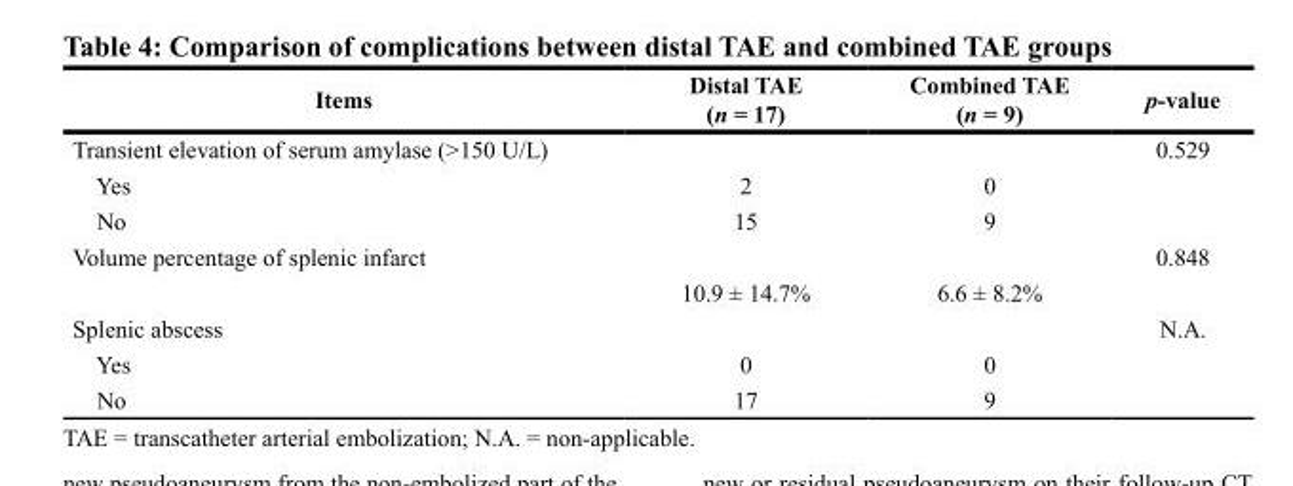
<table><thead><tr><td>Items</td><td>Distal TAE (n = 17)</td><td>Combined TAE (n = 9)</td><td>p-value</td></tr></thead><tbody><tr><td>Transient elevation of serum amylase (&gt;150 U/L)</td><td></td><td></td><td>0.529</td></tr><tr><td>Yes</td><td>2</td><td>0</td><td></td></tr><tr><td>No</td><td>15</td><td>9</td><td></td></tr><tr><td rowspan="2">Volume percentage of splenic infarct</td><td></td><td></td><td>0.848</td></tr><tr><td>10.9 ± 14.7%</td><td>6.6 ± 8.2%</td><td></td></tr><tr><td>Splenic abscess</td><td></td><td></td><td>N.A.</td></tr><tr><td>Yes</td><td>0</td><td>0</td><td></td></tr><tr><td>No</td><td>17</td><td>9</td><td></td></tr></tbody></table>